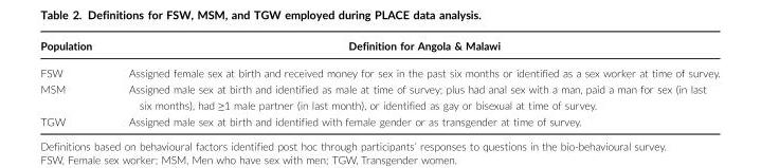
<table><thead><tr><td>Population</td><td>Definition for Angola &amp; Malawi</td></tr></thead><tbody><tr><td>FSW</td><td>Assigned female sex at birth and received money for sex in the past six months or identified as a sex worker at time of survey.</td></tr><tr><td>MSM</td><td>Assigned male sex at birth and identified as male at time of survey; plus had anal sex with a man, paid a man for sex (in last six months), had ≥1 male partner (in last month), or identified as gay or bisexual at time of survey.</td></tr><tr><td>TGW</td><td>Assigned male sex at birth and identified with female gender or as transgender at time of survey.</td></tr></tbody></table>